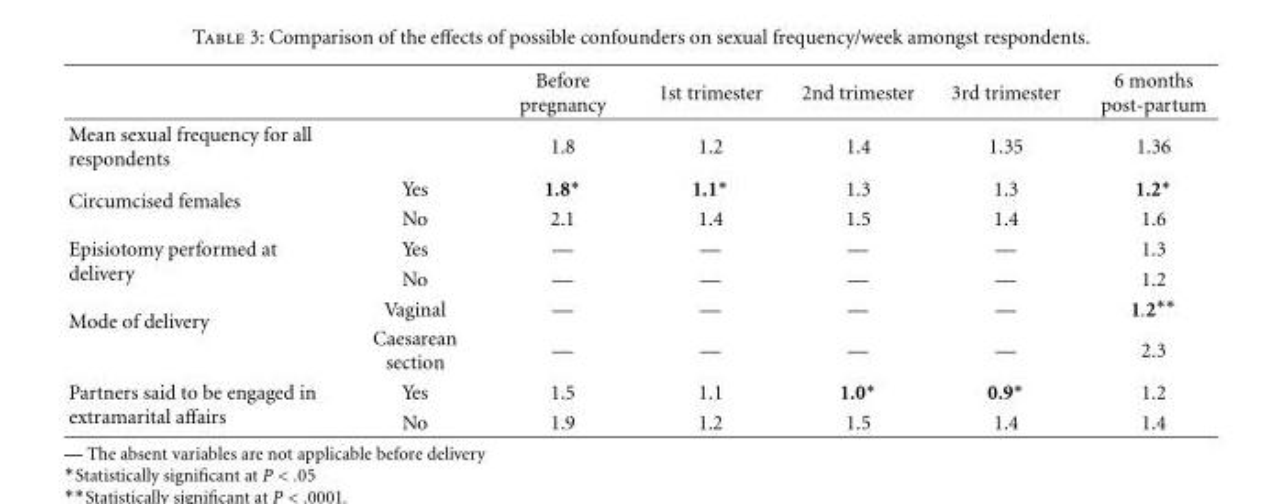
<table><thead><tr><td></td><td></td><td>Before pregnancy</td><td>1st trimester</td><td>2nd trimester</td><td>3rd trimester</td><td>6 months post-partum</td></tr></thead><tbody><tr><td>Mean sexual frequency for all respondents</td><td></td><td>1.8</td><td>1.2</td><td>1.4</td><td>1.35</td><td>1.36</td></tr><tr><td rowspan="2">Circumcised females</td><td>Yes</td><td>1.8∗</td><td>1.1∗</td><td>1.3</td><td>1.3</td><td>1.2∗</td></tr><tr><td>No</td><td>2.1</td><td>1.4</td><td>1.5</td><td>1.4</td><td>1.6</td></tr><tr><td rowspan="2">Episiotomy performed at delivery</td><td>Yes</td><td>—</td><td>—</td><td>—</td><td>—</td><td>1.3</td></tr><tr><td>No</td><td>—</td><td>—</td><td>—</td><td>—</td><td>1.2</td></tr><tr><td rowspan="2">Mode of delivery</td><td>Vaginal</td><td>—</td><td>—</td><td>—</td><td>—</td><td>1.2∗∗</td></tr><tr><td>Caesarean section</td><td>—</td><td>—</td><td>—</td><td>—</td><td>2.3</td></tr><tr><td rowspan="2">Partners said to be engaged in extramarital affairs</td><td>Yes</td><td>1.5</td><td>1.1</td><td>1.0∗</td><td>0.9∗</td><td>1.2</td></tr><tr><td>No</td><td>1.9</td><td>1.2</td><td>1.5</td><td>1.4</td><td>1.4</td></tr></tbody></table>